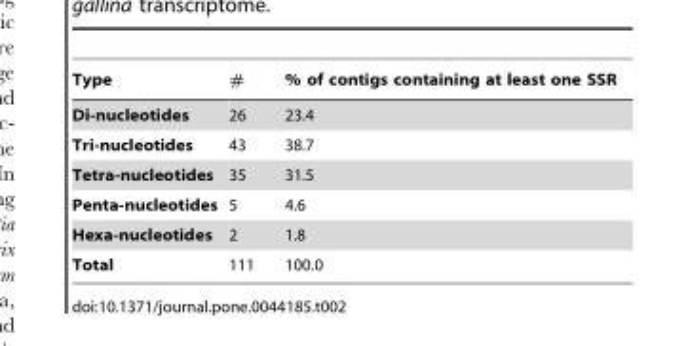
<table><thead><tr><td>Type</td><td>#</td><td>% of contigs containing at least one SSR</td></tr></thead><tbody><tr><td>Di-nucleotides</td><td>26</td><td>23.4</td></tr><tr><td>Tri-nucleotides</td><td>43</td><td>38.7</td></tr><tr><td>Tetra-nucleotides</td><td>35</td><td>31.5</td></tr><tr><td>Penta-nucleotides</td><td>5</td><td>4.6</td></tr><tr><td>Hexa-nucleotides</td><td>2</td><td>1.8</td></tr><tr><td>Total</td><td>111</td><td>100.0</td></tr></tbody></table>